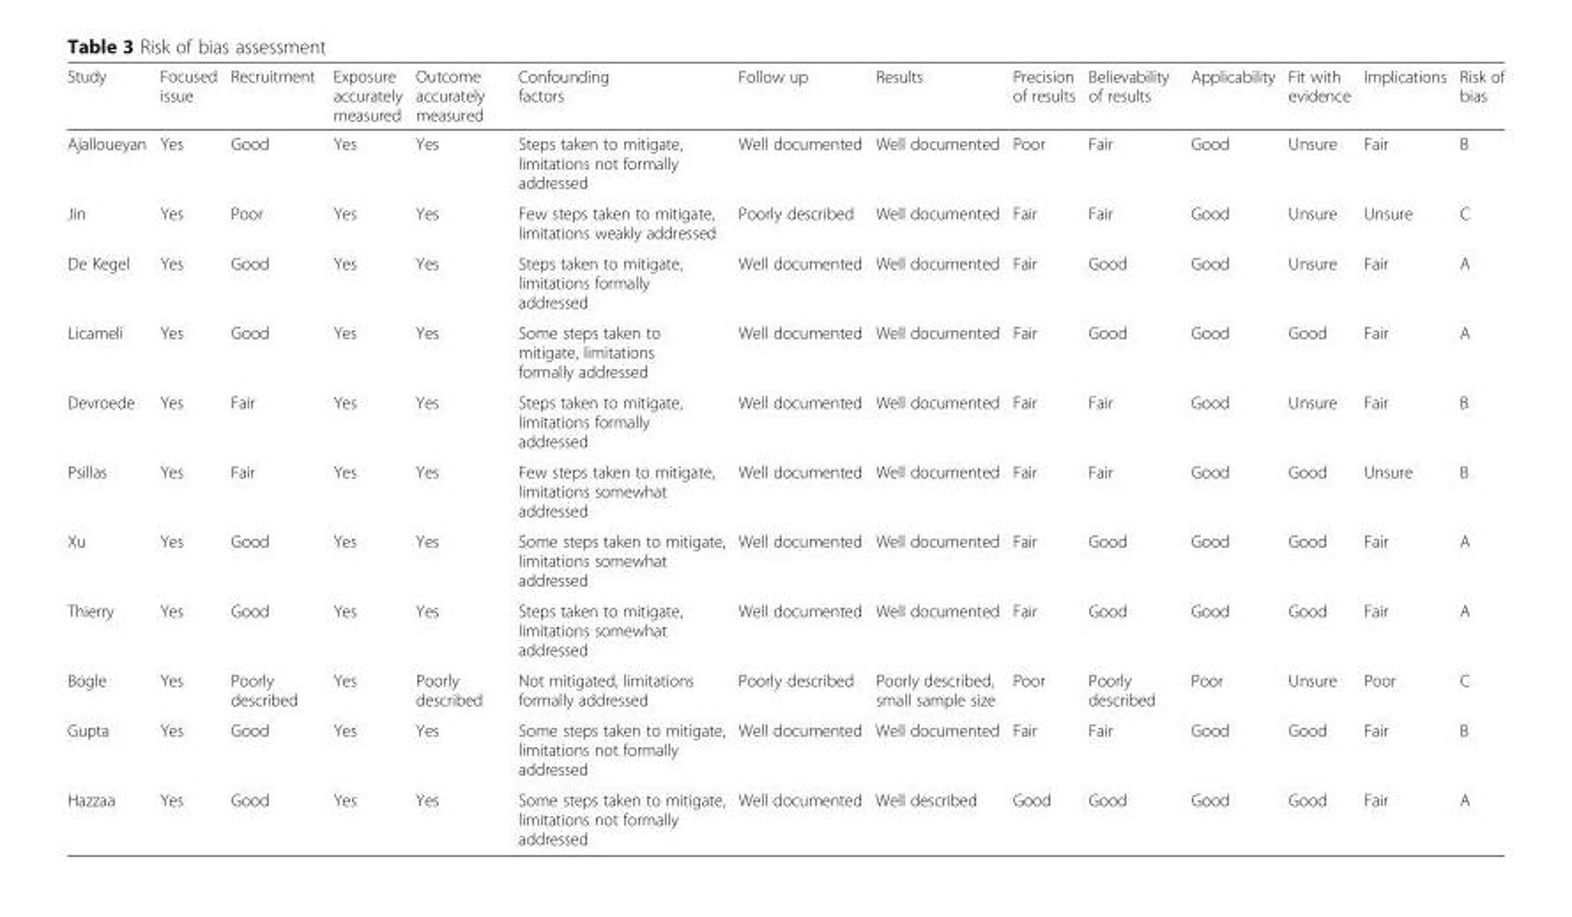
<table><thead><tr><td>Study</td><td>Focused issue</td><td>Recruitment</td><td>Exposure accurately measured</td><td>Outcome accurately measured</td><td>Confounding factors</td><td>Follow up</td><td>Results</td><td>Precision of results</td><td>Believability of results</td><td>Applicability</td><td>Fit with evidence</td><td>Implications</td><td>Risk of bias</td></tr></thead><tbody><tr><td>Ajalloueyan</td><td>Yes</td><td>Good</td><td>Yes</td><td>Yes</td><td>Steps taken to mitigate, limitations not formally addressed</td><td>Well documented</td><td>Well documented</td><td>Poor</td><td>Fair</td><td>Good</td><td>Unsure</td><td>Fair</td><td>B</td></tr><tr><td>Jin</td><td>Yes</td><td>Poor</td><td>Yes</td><td>Yes</td><td>Few steps taken to mitigate, limitations weakly addressed</td><td>Poorly described</td><td>Well documented</td><td>Fair</td><td>Fair</td><td>Good</td><td>Unsure</td><td>Unsure</td><td>C</td></tr><tr><td>De Kegel</td><td>Yes</td><td>Good</td><td>Yes</td><td>Yes</td><td>Steps taken to mitigate, limitations formally addressed</td><td>Well documented</td><td>Well documented</td><td>Fair</td><td>Good</td><td>Good</td><td>Unsure</td><td>Fair</td><td>A</td></tr><tr><td>Licameli</td><td>Yes</td><td>Good</td><td>Yes</td><td>Yes</td><td>Some steps taken to mitigate, limitations formally addressed</td><td>Well documented</td><td>Well documented</td><td>Fair</td><td>Good</td><td>Good</td><td>Good</td><td>Fair</td><td>A</td></tr><tr><td>Devroede</td><td>Yes</td><td>Fair</td><td>Yes</td><td>Yes</td><td>Steps taken to mitigate, limitations formally addressed</td><td>Well documented</td><td>Well documented</td><td>Fair</td><td>Fair</td><td>Good</td><td>Unsure</td><td>Fair</td><td>B</td></tr><tr><td>Psillas</td><td>Yes</td><td>Fair</td><td>Yes</td><td>Yes</td><td>Few steps taken to mitigate, limitations somewhat addressed</td><td>Well documented</td><td>Well documented</td><td>Fair</td><td>Fair</td><td>Good</td><td>Good</td><td>Unsure</td><td>B</td></tr><tr><td>Xu</td><td>Yes</td><td>Good</td><td>Yes</td><td>Yes</td><td>Some steps taken to mitigate, limitations somewhat addressed</td><td>Well documented</td><td>Well documented</td><td>Fair</td><td>Good</td><td>Good</td><td>Good</td><td>Fair</td><td>A</td></tr><tr><td>Thierry</td><td>Yes</td><td>Good</td><td>Yes</td><td>Yes</td><td>Steps taken to mitigate, limitations somewhat addressed</td><td>Well documented</td><td>Well documented</td><td>Fair</td><td>Good</td><td>Good</td><td>Good</td><td>Fair</td><td>A</td></tr><tr><td>Bogle</td><td>Yes</td><td>Poorly described</td><td>Yes</td><td>Poorly described</td><td>Not mitigated, limitations formally addressed</td><td>Poorly described</td><td>Poorly described, small sample size</td><td>Poor</td><td>Poorly described</td><td>Poor</td><td>Unsure</td><td>Poor</td><td>C</td></tr><tr><td>Gupta</td><td>Yes</td><td>Good</td><td>Yes</td><td>Yes</td><td>Some steps taken to mitigate, limitations not formally addressed</td><td>Well documented</td><td>Well documented</td><td>Fair</td><td>Fair</td><td>Good</td><td>Good</td><td>Fair</td><td>B</td></tr><tr><td>Hazzaa</td><td>Yes</td><td>Good</td><td>Yes</td><td>Yes</td><td>Some steps taken to mitigate, limitations not formally addressed</td><td>Well documented</td><td>Well described</td><td>Good</td><td>Good</td><td>Good</td><td>Good</td><td>Fair</td><td>A</td></tr></tbody></table>